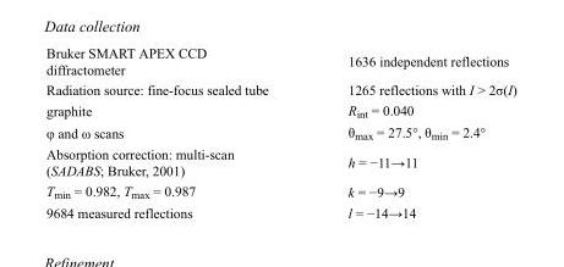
<table><tbody><tr><td>Bruker SMART APEX CCD diffractometer</td><td>1636 independent reflections</td></tr><tr><td>Radiation source: fine-focus sealed tube</td><td>1265 reflections with I &gt; 2σ(I)</td></tr><tr><td>graphite</td><td>R<sub>int</sub> = 0.040</td></tr><tr><td>φ and ω scans</td><td>θ<sub>max</sub> = 27.5°, θ<sub>min</sub> = 2.4°</td></tr><tr><td>Absorption correction: multi-scan (SADABS; Bruker, 2001)</td><td>h = −11→11</td></tr><tr><td>T<sub>min</sub> = 0.982, T<sub>max</sub> = 0.987</td><td>k = −9→9</td></tr><tr><td>9684 measured reflections</td><td>l = −14→14</td></tr></tbody></table>